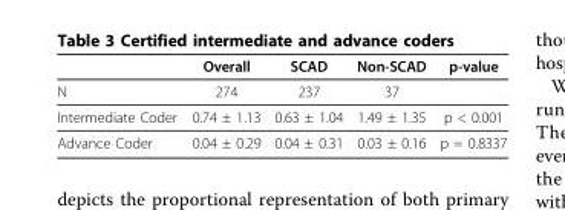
<table><thead><tr><td></td><td>Overall</td><td>SCAD</td><td>Non-SCAD</td><td>p-value</td></tr></thead><tbody><tr><td>N</td><td>274</td><td>237</td><td>37</td><td></td></tr><tr><td>Intermediate Coder</td><td>0.74 ± 1.13</td><td>0.63 ± 1.04</td><td>1.49 ± 1.35</td><td>p &lt; 0.001</td></tr><tr><td>Advance Coder</td><td>0.04 ± 0.29</td><td>0.04 ± 0.31</td><td>0.03 ± 0.16</td><td>p = 0.8337</td></tr></tbody></table>